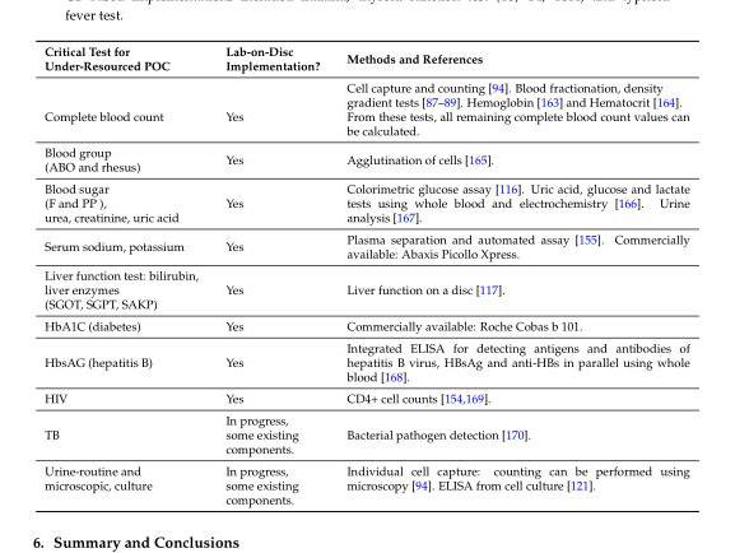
<table><thead><tr><td>Critical Test for Under-Resourced POC</td><td>Lab-on-Disc Implementation?</td><td>Methods and References</td></tr></thead><tbody><tr><td>Complete blood count</td><td>Yes</td><td>Cell capture and counting [94]. Blood fractionation, density gradient tests [87–89]. Hemoglobin [163] and Hematocrit [164]. From these tests, all remaining complete blood count values can be calculated.</td></tr><tr><td>Blood group (ABO and rhesus)</td><td>Yes</td><td>Agglutination of cells [165].</td></tr><tr><td>Blood sugar (F and PP ), urea, creatinine, uric acid</td><td>Yes</td><td>Colorimetric glucose assay [116]. Uric acid, glucose and lactate tests using whole blood and electrochemistry [166]. Urine analysis [167].</td></tr><tr><td>Serum sodium, potassium</td><td>Yes</td><td>Plasma separation and automated assay [155]. Commercially available: Abaxis Picollo Xpress.</td></tr><tr><td>Liver function test: bilirubin, liver enzymes (SGOT, SGPT, SAKP)</td><td>Yes</td><td>Liver function on a disc [117].</td></tr><tr><td>HbA1C (diabetes)</td><td>Yes</td><td>Commercially available: Roche Cobas b 101.</td></tr><tr><td>HbsAG (hepatitis B)</td><td>Yes</td><td>Integrated ELISA for detecting antigens and antibodies of hepatitis B virus, HBsAg and anti-HBs in parallel using whole blood [168].</td></tr><tr><td>HIV</td><td>Yes</td><td>CD4+ cell counts [154,169].</td></tr><tr><td>TB</td><td>In progress, some existing components.</td><td>Bacterial pathogen detection [170].</td></tr><tr><td>Urine-routine and microscopic, culture</td><td>In progress, some existing components.</td><td>Individual cell capture: counting can be performed using microscopy [94]. ELISA from cell culture [121].</td></tr></tbody></table>